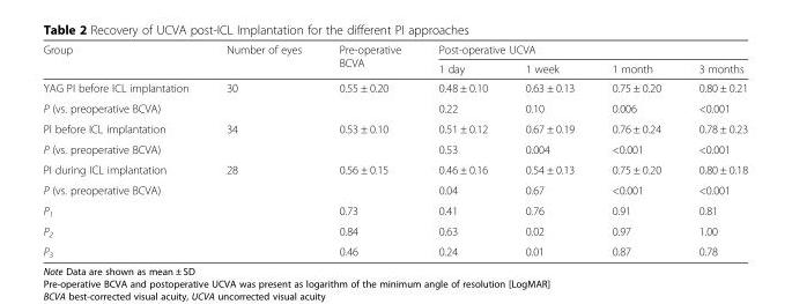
<table><thead><tr><td rowspan="2">Group</td><td rowspan="2">Number of eyes</td><td rowspan="2">Pre-operative BCVA</td><td colspan="4">Post-operative UCVA</td></tr><tr><td>1 day</td><td>1 week</td><td>1 month</td><td>3 months</td></tr></thead><tbody><tr><td>YAG PI before ICL implantation</td><td>30</td><td>0.55 ± 0.20</td><td>0.48 ± 0.10</td><td>0.63 ± 0.13</td><td>0.75 ± 0.20</td><td>0.80 ± 0.21</td></tr><tr><td>P (vs. preoperative BCVA)</td><td></td><td></td><td>0.22</td><td>0.10</td><td>0.006</td><td>&lt;0.001</td></tr><tr><td>PI before ICL implantation</td><td>34</td><td>0.53 ± 0.10</td><td>0.51 ± 0.12</td><td>0.67 ± 0.19</td><td>0.76 ± 0.24</td><td>0.78 ± 0.23</td></tr><tr><td>P (vs. preoperative BCVA)</td><td></td><td></td><td>0.53</td><td>0.004</td><td>&lt;0.001</td><td>&lt;0.001</td></tr><tr><td>PI during ICL implantation</td><td>28</td><td>0.56 ± 0.15</td><td>0.46 ± 0.16</td><td>0.54 ± 0.13</td><td>0.75 ± 0.20</td><td>0.80 ± 0.18</td></tr><tr><td>P (vs. preoperative BCVA)</td><td></td><td></td><td>0.04</td><td>0.67</td><td>&lt;0.001</td><td>&lt;0.001</td></tr><tr><td>P<sub>1</sub></td><td></td><td>0.73</td><td>0.41</td><td>0.76</td><td>0.91</td><td>0.81</td></tr><tr><td>P<sub>2</sub></td><td></td><td>0.84</td><td>0.63</td><td>0.02</td><td>0.97</td><td>1.00</td></tr><tr><td>P<sub>3</sub></td><td></td><td>0.46</td><td>0.24</td><td>0.01</td><td>0.87</td><td>0.78</td></tr></tbody></table>